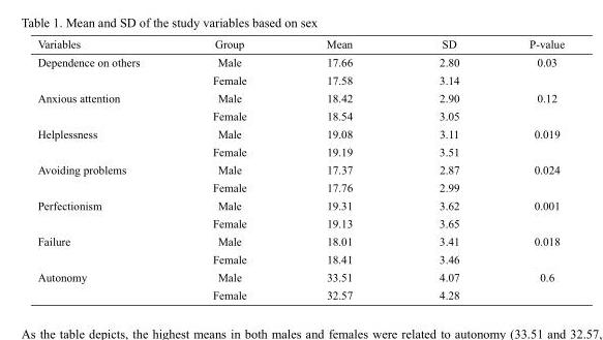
<table><thead><tr><td>Variables</td><td>Group</td><td>Mean</td><td>SD</td><td>P-value</td></tr></thead><tbody><tr><td rowspan="2">Dependence on others</td><td>Male</td><td>17.66</td><td>2.80</td><td rowspan="2">0.03</td></tr><tr><td>Female</td><td>17.58</td><td>3.14</td></tr><tr><td rowspan="2">Anxious attention</td><td>Male</td><td>18.42</td><td>2.90</td><td rowspan="2">0.12</td></tr><tr><td>Female</td><td>18.54</td><td>3.05</td></tr><tr><td rowspan="2">Helplessness</td><td>Male</td><td>19.08</td><td>3.11</td><td rowspan="2">0.019</td></tr><tr><td>Female</td><td>19.19</td><td>3.51</td></tr><tr><td rowspan="2">Avoiding problems</td><td>Male</td><td>17.37</td><td>2.87</td><td rowspan="2">0.024</td></tr><tr><td>Female</td><td>17.76</td><td>2.99</td></tr><tr><td rowspan="2">Perfectionism</td><td>Male</td><td>19.31</td><td>3.62</td><td rowspan="2">0.001</td></tr><tr><td>Female</td><td>19.13</td><td>3.65</td></tr><tr><td rowspan="2">Failure</td><td>Male</td><td>18.01</td><td>3.41</td><td rowspan="2">0.018</td></tr><tr><td>Female</td><td>18.41</td><td>3.46</td></tr><tr><td rowspan="2">Autonomy</td><td>Male</td><td>33.51</td><td>4.07</td><td rowspan="2">0.6</td></tr><tr><td>Female</td><td>32.57</td><td>4.28</td></tr></tbody></table>